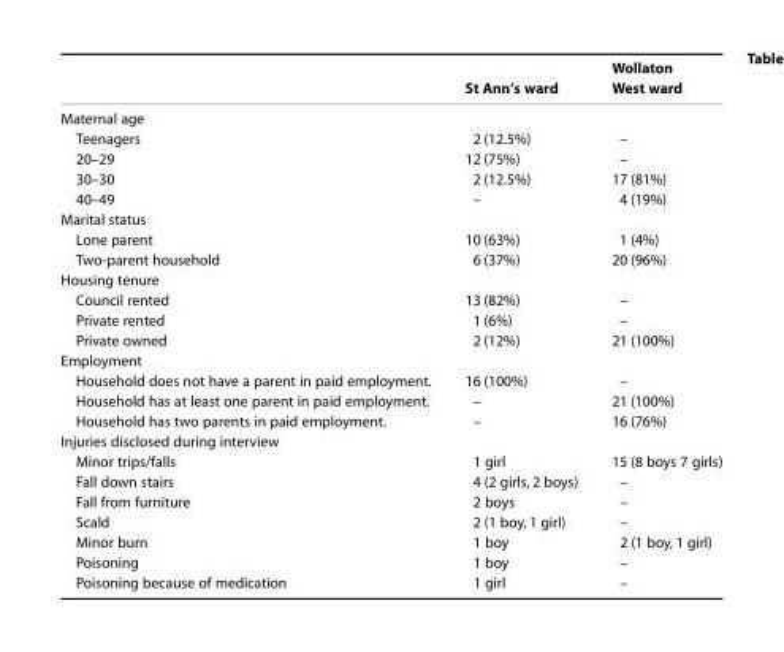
<table><thead><tr><td></td><td>St Ann’s ward</td><td>Wollaton West ward</td></tr></thead><tbody><tr><td colspan="3">Maternal age</td></tr><tr><td>Teenagers</td><td>2 (12.5%)</td><td>–</td></tr><tr><td>20–29</td><td>12 (75%)</td><td>–</td></tr><tr><td>30–30</td><td>2 (12.5%)</td><td>17 (81%)</td></tr><tr><td>40–49</td><td>–</td><td>4 (19%)</td></tr><tr><td colspan="3">Marital status</td></tr><tr><td>Lone parent</td><td>10 (63%)</td><td>1 (4%)</td></tr><tr><td>Two-parent household</td><td>6 (37%)</td><td>20 (96%)</td></tr><tr><td colspan="3">Housing tenure</td></tr><tr><td>Council rented</td><td>13 (82%)</td><td>–</td></tr><tr><td>Private rented</td><td>1 (6%)</td><td>–</td></tr><tr><td>Private owned</td><td>2 (12%)</td><td>21 (100%)</td></tr><tr><td colspan="3">Employment</td></tr><tr><td>Household does not have a parent in paid employment.</td><td>16 (100%)</td><td>–</td></tr><tr><td>Household has at least one parent in paid employment.</td><td>–</td><td>21 (100%)</td></tr><tr><td>Household has two parents in paid employment.</td><td>–</td><td>16 (76%)</td></tr><tr><td colspan="3">Injuries disclosed during interview</td></tr><tr><td>Minor trips/falls</td><td>1 girl</td><td>15 (8 boys 7 girls)</td></tr><tr><td>Fall down stairs</td><td>4 (2 girls, 2 boys)</td><td>–</td></tr><tr><td>Fall from furniture</td><td>2 boys</td><td>–</td></tr><tr><td>Scald</td><td>2 (1 boy, 1 girl)</td><td>–</td></tr><tr><td>Minor burn</td><td>1 boy</td><td>2 (1 boy, 1 girl)</td></tr><tr><td>Poisoning</td><td>1 boy</td><td>–</td></tr><tr><td>Poisoning because of medication</td><td>1 girl</td><td>–</td></tr></tbody></table>